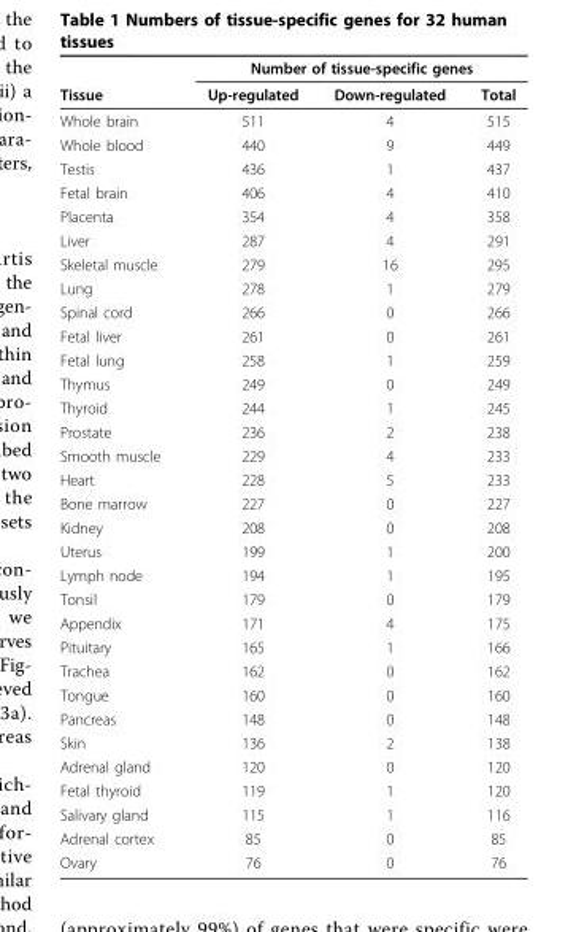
<table><thead><tr><td rowspan="2">Tissue</td><td colspan="3">Number of tissue-specific genes</td></tr><tr><td>Up-regulated</td><td>Down-regulated</td><td>Total</td></tr></thead><tbody><tr><td>Whole brain</td><td>511</td><td>4</td><td>515</td></tr><tr><td>Whole blood</td><td>440</td><td>9</td><td>449</td></tr><tr><td>Testis</td><td>436</td><td>1</td><td>437</td></tr><tr><td>Fetal brain</td><td>406</td><td>4</td><td>410</td></tr><tr><td>Placenta</td><td>354</td><td>4</td><td>358</td></tr><tr><td>Liver</td><td>287</td><td>4</td><td>291</td></tr><tr><td>Skeletal muscle</td><td>279</td><td>16</td><td>295</td></tr><tr><td>Lung</td><td>278</td><td>1</td><td>279</td></tr><tr><td>Spinal cord</td><td>266</td><td>0</td><td>266</td></tr><tr><td>Fetal liver</td><td>261</td><td>0</td><td>261</td></tr><tr><td>Fetal lung</td><td>258</td><td>1</td><td>259</td></tr><tr><td>Thymus</td><td>249</td><td>0</td><td>249</td></tr><tr><td>Thyroid</td><td>244</td><td>1</td><td>245</td></tr><tr><td>Prostate</td><td>236</td><td>2</td><td>238</td></tr><tr><td>Smooth muscle</td><td>229</td><td>4</td><td>233</td></tr><tr><td>Heart</td><td>228</td><td>5</td><td>233</td></tr><tr><td>Bone marrow</td><td>227</td><td>0</td><td>227</td></tr><tr><td>Kidney</td><td>208</td><td>0</td><td>208</td></tr><tr><td>Uterus</td><td>199</td><td>1</td><td>200</td></tr><tr><td>Lymph node</td><td>194</td><td>1</td><td>195</td></tr><tr><td>Tonsil</td><td>179</td><td>0</td><td>179</td></tr><tr><td>Appendix</td><td>171</td><td>4</td><td>175</td></tr><tr><td>Pituitary</td><td>165</td><td>1</td><td>166</td></tr><tr><td>Trachea</td><td>162</td><td>0</td><td>162</td></tr><tr><td>Tongue</td><td>160</td><td>0</td><td>160</td></tr><tr><td>Pancreas</td><td>148</td><td>0</td><td>148</td></tr><tr><td>Skin</td><td>136</td><td>2</td><td>138</td></tr><tr><td>Adrenal gland</td><td>120</td><td>0</td><td>120</td></tr><tr><td>Fetal thyroid</td><td>119</td><td>1</td><td>120</td></tr><tr><td>Salivary gland</td><td>115</td><td>1</td><td>116</td></tr><tr><td>Adrenal cortex</td><td>85</td><td>0</td><td>85</td></tr><tr><td>Ovary</td><td>76</td><td>0</td><td>76</td></tr></tbody></table>